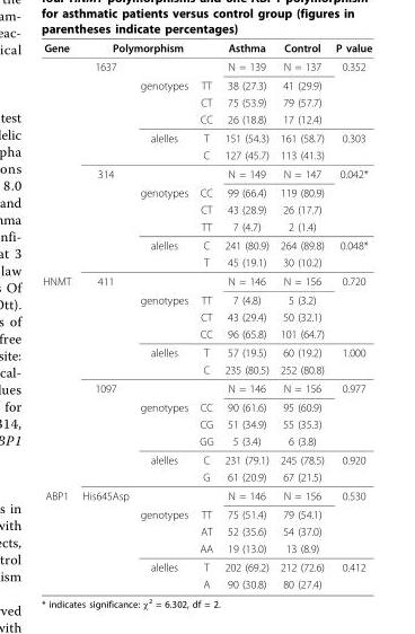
<table><thead><tr><td rowspan="2">Gene</td><td colspan="3">Polymorphism</td><td rowspan="2">Asthma N = 139</td><td rowspan="2">Control N = 137</td><td rowspan="2">P value 0.352</td></tr><tr><td>1637</td><td></td><td></td></tr></thead><tbody><tr><td></td><td></td><td>genotypes</td><td>TT</td><td>38 (27.3)</td><td>41 (29.9)</td><td></td></tr><tr><td></td><td></td><td></td><td>CT</td><td>75 (53.9)</td><td>79 (57.7)</td><td></td></tr><tr><td></td><td></td><td></td><td>CC</td><td>26 (18.8)</td><td>17 (12.4)</td><td></td></tr><tr><td></td><td></td><td>alelles</td><td>T</td><td>151 (54.3)</td><td>161 (58.7)</td><td>0.303</td></tr><tr><td></td><td></td><td></td><td>C</td><td>127 (45.7)</td><td>113 (41.3)</td><td></td></tr><tr><td></td><td>314</td><td></td><td></td><td>N = 149</td><td>N = 147</td><td>0.042*</td></tr><tr><td></td><td></td><td>genotypes</td><td>CC</td><td>99 (66.4)</td><td>119 (80.9)</td><td></td></tr><tr><td></td><td></td><td></td><td>CT</td><td>43 (28.9)</td><td>26 (17.7)</td><td></td></tr><tr><td></td><td></td><td></td><td>TT</td><td>7 (4.7)</td><td>2 (1.4)</td><td></td></tr><tr><td></td><td></td><td>alelles</td><td>C</td><td>241 (80.9)</td><td>264 (89.8)</td><td>0.048*</td></tr><tr><td></td><td></td><td></td><td>T</td><td>45 (19.1)</td><td>30 (10.2)</td><td></td></tr><tr><td rowspan="12">HNMT</td><td>411</td><td></td><td></td><td>N = 146</td><td>N = 156</td><td>0.720</td></tr><tr><td></td><td>genotypes</td><td>TT</td><td>7 (4.8)</td><td>5 (3.2)</td><td></td></tr><tr><td></td><td></td><td>CT</td><td>43 (29.4)</td><td>50 (32.1)</td><td></td></tr><tr><td></td><td></td><td>CC</td><td>96 (65.8)</td><td>101 (64.7)</td><td></td></tr><tr><td></td><td>alelles</td><td>T</td><td>57 (19.5)</td><td>60 (19.2)</td><td>1.000</td></tr><tr><td></td><td></td><td>C</td><td>235 (80.5)</td><td>252 (80.8)</td><td></td></tr><tr><td>1097</td><td></td><td></td><td>N = 146</td><td>N = 156</td><td>0.977</td></tr><tr><td></td><td>genotypes</td><td>CC</td><td>90 (61.6)</td><td>95 (60.9)</td><td></td></tr><tr><td></td><td></td><td>CG</td><td>51 (34.9)</td><td>55 (35.3)</td><td></td></tr><tr><td></td><td></td><td>GG</td><td>5 (3.4)</td><td>6 (3.8)</td><td></td></tr><tr><td></td><td>alelles</td><td>C</td><td>231 (79.1)</td><td>245 (78.5)</td><td>0.920</td></tr><tr><td></td><td></td><td>G</td><td>61 (20.9)</td><td>67 (21.5)</td><td></td></tr><tr><td rowspan="6">ABP1</td><td>His645Asp</td><td></td><td></td><td>N = 146</td><td>N = 156</td><td>0.530</td></tr><tr><td></td><td>genotypes</td><td>TT</td><td>75 (51.4)</td><td>79 (54.1)</td><td></td></tr><tr><td></td><td></td><td>AT</td><td>52 (35.6)</td><td>54 (37.0)</td><td></td></tr><tr><td></td><td></td><td>AA</td><td>19 (13.0)</td><td>13 (8.9)</td><td></td></tr><tr><td></td><td>alelles</td><td>T</td><td>202 (69.2)</td><td>212 (72.6)</td><td>0.412</td></tr><tr><td></td><td></td><td>A</td><td>90 (30.8)</td><td>80 (27.4)</td><td></td></tr></tbody></table>